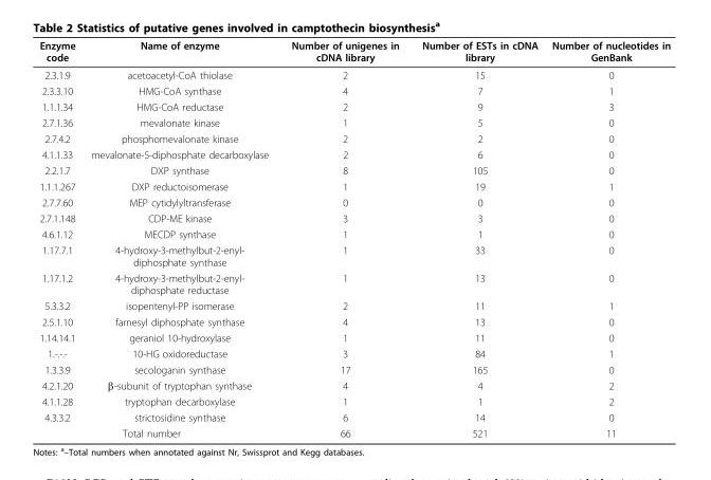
<table><thead><tr><td>Enzyme code</td><td>Name of enzyme</td><td>Number of unigenes in cDNA library</td><td>Number of ESTs in cDNA library</td><td>Number of nucleotides in GenBank</td></tr></thead><tbody><tr><td>2.3.1.9</td><td>acetoacetyl-CoA thiolase</td><td>2</td><td>15</td><td>0</td></tr><tr><td>2.3.3.10</td><td>HMG-CoA synthase</td><td>4</td><td>7</td><td>1</td></tr><tr><td>1.1.1.34</td><td>HMG-CoA reductase</td><td>2</td><td>9</td><td>3</td></tr><tr><td>2.7.1.36</td><td>mevalonate kinase</td><td>1</td><td>5</td><td>0</td></tr><tr><td>2.7.4.2</td><td>phosphomevalonate kinase</td><td>2</td><td>2</td><td>0</td></tr><tr><td>4.1.1.33</td><td>mevalonate-5-diphosphate decarboxylase</td><td>2</td><td>6</td><td>0</td></tr><tr><td>2.2.1.7</td><td>DXP synthase</td><td>8</td><td>105</td><td>0</td></tr><tr><td>1.1.1.267</td><td>DXP reductoisomerase</td><td>1</td><td>19</td><td>1</td></tr><tr><td>2.7.7.60</td><td>MEP cytidylyltransferase</td><td>0</td><td>0</td><td>0</td></tr><tr><td>2.7.1.148</td><td>CDP-ME kinase</td><td>3</td><td>3</td><td>0</td></tr><tr><td>4.6.1.12</td><td>MECDP synthase</td><td>1</td><td>1</td><td>0</td></tr><tr><td>1.17.7.1</td><td>4-hydroxy-3-methylbut-2-enyl- diphosphate synthase</td><td>1</td><td>33</td><td>0</td></tr><tr><td>1.17.1.2</td><td>4-hydroxy-3-methylbut-2-enyl- diphosphate reductase</td><td>1</td><td>13</td><td>0</td></tr><tr><td>5.3.3.2</td><td>isopentenyl-PP isomerase</td><td>2</td><td>11</td><td>1</td></tr><tr><td>2.5.1.10</td><td>farnesyl diphosphate synthase</td><td>4</td><td>13</td><td>0</td></tr><tr><td>1.14.14.1</td><td>geraniol 10-hydroxylase</td><td>1</td><td>11</td><td>0</td></tr><tr><td>1.-.-.-</td><td>10-HG oxidoreductase</td><td>3</td><td>84</td><td>1</td></tr><tr><td>1.3.3.9</td><td>secologanin synthase</td><td>17</td><td>165</td><td>0</td></tr><tr><td>4.2.1.20</td><td>β-subunit of tryptophan synthase</td><td>4</td><td>4</td><td>2</td></tr><tr><td>4.1.1.28</td><td>tryptophan decarboxylase</td><td>1</td><td>1</td><td>2</td></tr><tr><td>4.3.3.2</td><td>strictosidine synthase</td><td>6</td><td>14</td><td>0</td></tr><tr><td colspan="2">Total number</td><td>66</td><td>521</td><td>11</td></tr></tbody></table>